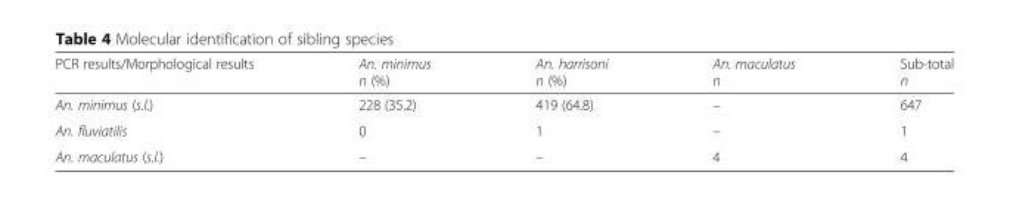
<table><thead><tr><td>PCR results/Morphological results</td><td>An. minimus n (%)</td><td>An. harrisoni n (%)</td><td>An. maculatus n</td><td>Sub-total n</td></tr></thead><tbody><tr><td>An. minimus (s.l.)</td><td>228 (35.2)</td><td>419 (64.8)</td><td>–</td><td>647</td></tr><tr><td>An. fluviatilis</td><td>0</td><td>1</td><td>–</td><td>1</td></tr><tr><td>An. maculatus (s.l.)</td><td>–</td><td>–</td><td>4</td><td>4</td></tr></tbody></table>